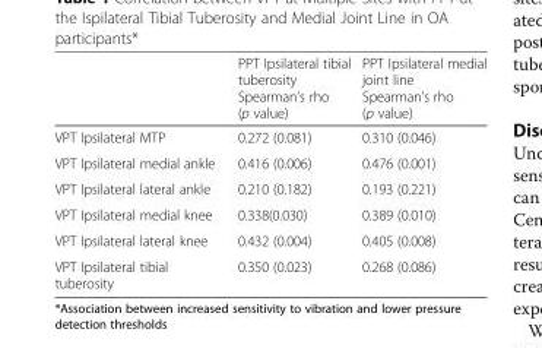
<table><thead><tr><td></td><td>PPT Ipsilateral tibial tuberosity Spearman’s rho (p value)</td><td>PPT Ipsilateral medial joint line Spearman’s rho (p value)</td></tr></thead><tbody><tr><td>VPT Ipsilateral MTP</td><td>0.272 (0.081)</td><td>0.310 (0.046)</td></tr><tr><td>VPT Ipsilateral medial ankle</td><td>0.416 (0.006)</td><td>0.476 (0.001)</td></tr><tr><td>VPT Ipsilateral lateral ankle</td><td>0.210 (0.182)</td><td>0.193 (0.221)</td></tr><tr><td>VPT Ipsilateral medial knee</td><td>0.338(0.030)</td><td>0.389 (0.010)</td></tr><tr><td>VPT Ipsilateral lateral knee</td><td>0.432 (0.004)</td><td>0.405 (0.008)</td></tr><tr><td>VPT Ipsilateral tibial tuberosity</td><td>0.350 (0.023)</td><td>0.268 (0.086)</td></tr></tbody></table>